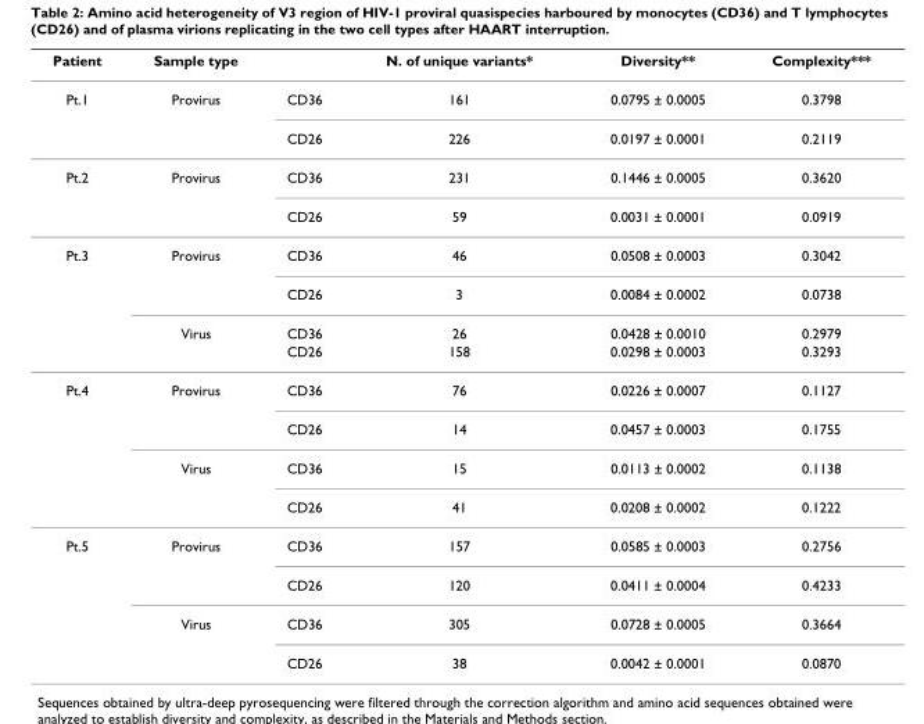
<table><thead><tr><td>Patient</td><td>Sample type</td><td></td><td>N. of unique variants*</td><td>Diversity**</td><td>Complexity***</td></tr></thead><tbody><tr><td rowspan="2">Pt.1</td><td>Provirus</td><td>CD36</td><td>161</td><td>0.0795 ± 0.0005</td><td>0.3798</td></tr><tr><td></td><td>CD26</td><td>226</td><td>0.0197 ± 0.0001</td><td>0.2119</td></tr><tr><td rowspan="2">Pt.2</td><td>Provirus</td><td>CD36</td><td>231</td><td>0.1446 ± 0.0005</td><td>0.3620</td></tr><tr><td></td><td>CD26</td><td>59</td><td>0.0031 ± 0.0001</td><td>0.0919</td></tr><tr><td rowspan="4">Pt.3</td><td>Provirus</td><td>CD36</td><td>46</td><td>0.0508 ± 0.0003</td><td>0.3042</td></tr><tr><td></td><td>CD26</td><td>3</td><td>0.0084 ± 0.0002</td><td>0.0738</td></tr><tr><td>Virus</td><td>CD36</td><td>26</td><td>0.0428 ± 0.0010</td><td>0.2979</td></tr><tr><td></td><td>CD26</td><td>158</td><td>0.0298 ± 0.0003</td><td>0.3293</td></tr><tr><td rowspan="4">Pt.4</td><td>Provirus</td><td>CD36</td><td>76</td><td>0.0226 ± 0.0007</td><td>0.1127</td></tr><tr><td></td><td>CD26</td><td>14</td><td>0.0457 ± 0.0003</td><td>0.1755</td></tr><tr><td>Virus</td><td>CD36</td><td>15</td><td>0.0113 ± 0.0002</td><td>0.1138</td></tr><tr><td></td><td>CD26</td><td>41</td><td>0.0208 ± 0.0002</td><td>0.1222</td></tr><tr><td rowspan="4">Pt.5</td><td>Provirus</td><td>CD36</td><td>157</td><td>0.0585 ± 0.0003</td><td>0.2756</td></tr><tr><td></td><td>CD26</td><td>120</td><td>0.0411 ± 0.0004</td><td>0.4233</td></tr><tr><td>Virus</td><td>CD36</td><td>305</td><td>0.0728 ± 0.0005</td><td>0.3664</td></tr><tr><td></td><td>CD26</td><td>38</td><td>0.0042 ± 0.0001</td><td>0.0870</td></tr></tbody></table>